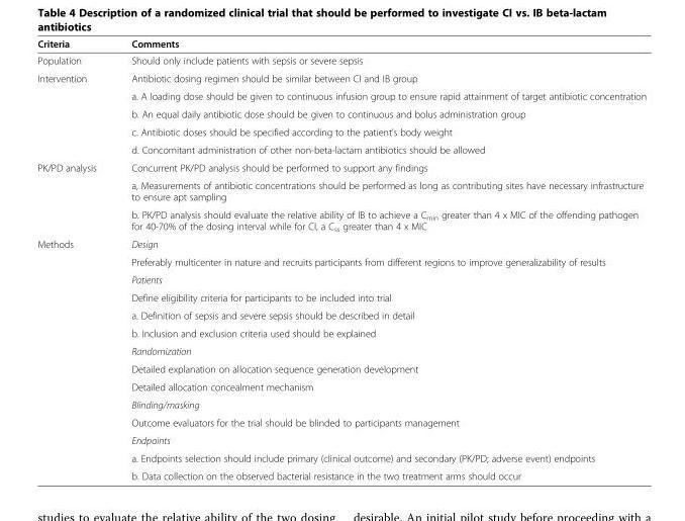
<table><thead><tr><td>Criteria</td><td>Comments</td></tr></thead><tbody><tr><td>Population</td><td>Should only include patients with sepsis or severe sepsis</td></tr><tr><td rowspan="5">Intervention</td><td>Antibiotic dosing regimen should be similar between CI and IB group</td></tr><tr><td>a. A loading dose should be given to continuous infusion group to ensure rapid attainment of target antibiotic concentration</td></tr><tr><td>b. An equal daily antibiotic dose should be given to continuous and bolus administration group</td></tr><tr><td>c. Antibiotic doses should be specified according to the patient’s body weight</td></tr><tr><td>d. Concomitant administration of other non-beta-lactam antibiotics should be allowed</td></tr><tr><td rowspan="3">PK/PD analysis</td><td>Concurrent PK/PD analysis should be performed to support any findings</td></tr><tr><td>a, Measurements of antibiotic concentrations should be performed as long as contributing sites have necessary infrastructure to ensure apt sampling</td></tr><tr><td>b. PK/PD analysis should evaluate the relative ability of IB to achieve a C<sub>min</sub> greater than 4 x MIC of the offending pathogen for 40-70% of the dosing interval while for CI, a C<sub>ss</sub> greater than 4 x MIC</td></tr><tr><td rowspan="14">Methods</td><td>Design</td></tr><tr><td>Preferably multicenter in nature and recruits participants from different regions to improve generalizability of results</td></tr><tr><td>Patients</td></tr><tr><td>Define eligibility criteria for participants to be included into trial</td></tr><tr><td>a. Definition of sepsis and severe sepsis should be described in detail</td></tr><tr><td>b. Inclusion and exclusion criteria used should be explained</td></tr><tr><td>Randomization</td></tr><tr><td>Detailed explanation on allocation sequence generation development</td></tr><tr><td>Detailed allocation concealment mechanism</td></tr><tr><td>Blinding/masking</td></tr><tr><td>Outcome evaluators for the trial should be blinded to participants management</td></tr><tr><td>Endpoints</td></tr><tr><td>a. Endpoints selection should include primary (clinical outcome) and secondary (PK/PD; adverse event) endpoints</td></tr><tr><td>b. Data collection on the observed bacterial resistance in the two treatment arms should occur</td></tr></tbody></table>